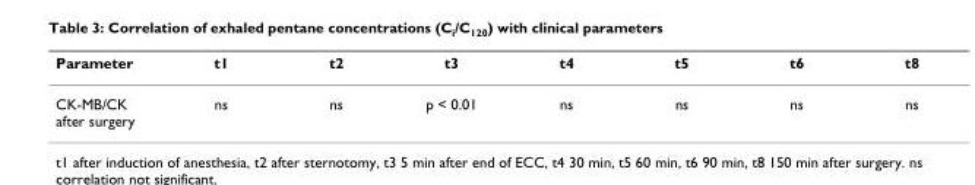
<table><thead><tr><td>Parameter</td><td>t1</td><td>t2</td><td>t3</td><td>t4</td><td>t5</td><td>t6</td><td>t8</td></tr></thead><tbody><tr><td>CK-MB/CK after surgery</td><td>ns</td><td>ns</td><td>p &lt; 0.01</td><td>ns</td><td>ns</td><td>ns</td><td>ns</td></tr></tbody></table>